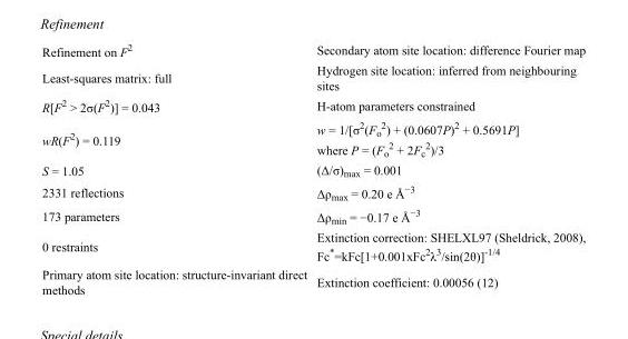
<table><tbody><tr><td>Refinement on F<sup>2</sup></td><td>Secondary atom site location: difference Fourier map</td></tr><tr><td>Least-squares matrix: full</td><td>Hydrogen site location: inferred from neighbouring sites</td></tr><tr><td>R[F<sup>2</sup> &gt; 2σ(F<sup>2</sup>)] = 0.043</td><td>H-atom parameters constrained</td></tr><tr><td>wR(F<sup>2</sup>) = 0.119</td><td>w = 1/[σ<sup>2</sup>(F<sub>o</sub> <sup>2</sup>) + (0.0607P)<sup>2</sup> + 0.5691P] where P = (F<sub>o</sub> <sup>2</sup> + 2F<sub>c</sub> <sup>2</sup>)/3</td></tr><tr><td>S = 1.05</td><td>(Δ/σ)<sub>max</sub> = 0.001</td></tr><tr><td>2331 reflections</td><td>Δρ<sub>max</sub> = 0.20 e Å<sup>−3</sup></td></tr><tr><td>173 parameters</td><td>Δρ<sub>min</sub> = −0.17 e Å<sup>−3</sup></td></tr><tr><td>0 restraints</td><td>Extinction correction: SHELXL97 (Sheldrick, 2008), Fc*=kFc[1+0.001xFc<sup>2</sup>λ<sup>3</sup>/sin(2θ)]<sup>-1/4</sup></td></tr><tr><td>Primary atom site location: structure-invariant direct methods</td><td>Extinction coefficient: 0.00056 (12)</td></tr></tbody></table>